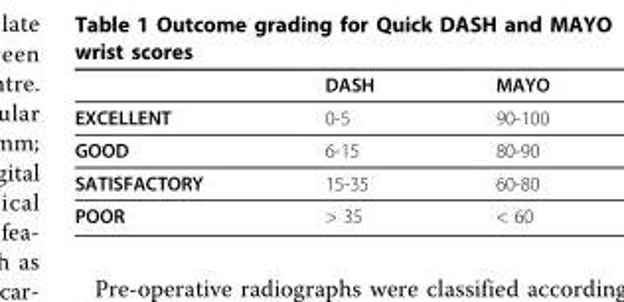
<table><thead><tr><td></td><td>DASH</td><td>MAYO</td></tr></thead><tbody><tr><td>EXCELLENT</td><td>0-5</td><td>90-100</td></tr><tr><td>GOOD</td><td>6-15</td><td>80-90</td></tr><tr><td>SATISFACTORY</td><td>15-35</td><td>60-80</td></tr><tr><td>POOR</td><td>&gt; 35</td><td>&lt; 60</td></tr></tbody></table>